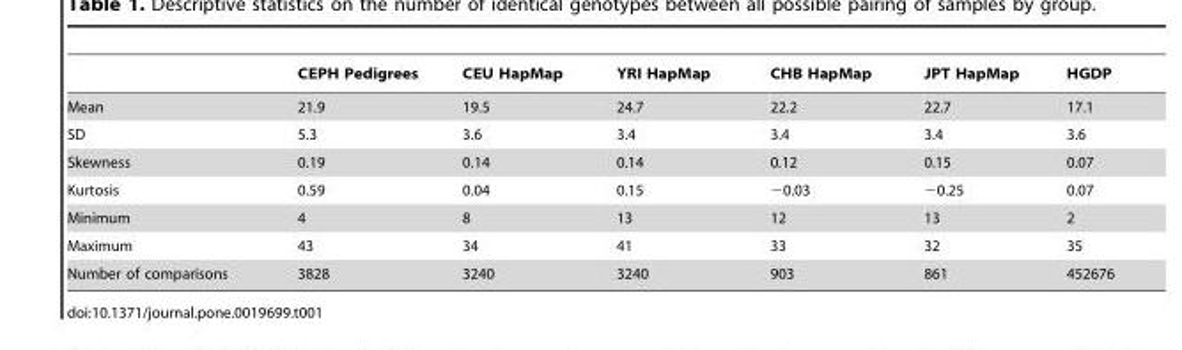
<table><thead><tr><td></td><td>CEPH Pedigrees</td><td>CEU HapMap</td><td>YRI HapMap</td><td>CHB HapMap</td><td>JPT HapMap</td><td>HGDP</td></tr></thead><tbody><tr><td>Mean</td><td>21.9</td><td>19.5</td><td>24.7</td><td>22.2</td><td>22.7</td><td>17.1</td></tr><tr><td>SD</td><td>5.3</td><td>3.6</td><td>3.4</td><td>3.4</td><td>3.4</td><td>3.6</td></tr><tr><td>Skewness</td><td>0.19</td><td>0.14</td><td>0.14</td><td>0.12</td><td>0.15</td><td>0.07</td></tr><tr><td>Kurtosis</td><td>0.59</td><td>0.04</td><td>0.15</td><td>−0.03</td><td>−0.25</td><td>0.07</td></tr><tr><td>Minimum</td><td>4</td><td>8</td><td>13</td><td>12</td><td>13</td><td>2</td></tr><tr><td>Maximum</td><td>43</td><td>34</td><td>41</td><td>33</td><td>32</td><td>35</td></tr><tr><td>Number of comparisons</td><td>3828</td><td>3240</td><td>3240</td><td>903</td><td>861</td><td>452676</td></tr></tbody></table>